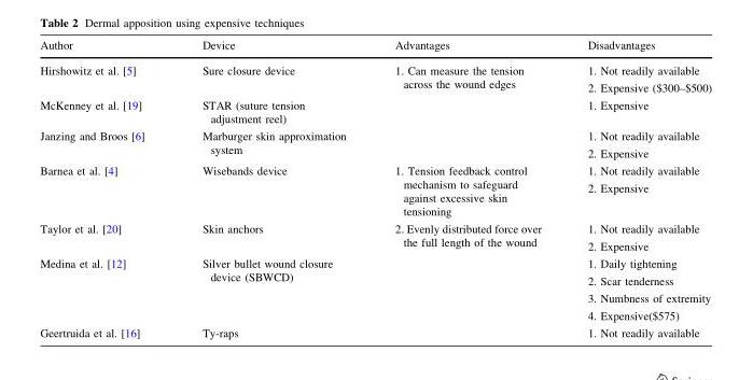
<table><thead><tr><td>Author</td><td>Device</td><td>Advantages</td><td>Disadvantages</td></tr></thead><tbody><tr><td rowspan="2">Hirshowitz et al. [5]</td><td rowspan="2">Sure closure device</td><td rowspan="2">1. Can measure the tension across the wound edges</td><td>1. Not readily available</td></tr><tr><td>2. Expensive ($300–$500)</td></tr><tr><td>McKenney et al. [19]</td><td>STAR (suture tension adjustment reel)</td><td></td><td>1. Expensive</td></tr><tr><td rowspan="2">Janzing and Broos [6]</td><td rowspan="2">Marburger skin approximation system</td><td rowspan="2"></td><td>1. Not readily available</td></tr><tr><td>2. Expensive</td></tr><tr><td rowspan="2">Barnea et al. [4]</td><td rowspan="2">Wisebands device</td><td rowspan="2">1. Tension feedback control mechanism to safeguard against excessive skin tensioning</td><td>1. Not readily available</td></tr><tr><td>2. Expensive</td></tr><tr><td rowspan="2">Taylor et al. [20]</td><td rowspan="2">Skin anchors</td><td rowspan="2">2. Evenly distributed force over the full length of the wound</td><td>1. Not readily available</td></tr><tr><td>2. Expensive</td></tr><tr><td rowspan="4">Medina et al. [12]</td><td rowspan="4">Silver bullet wound closure device (SBWCD)</td><td rowspan="4"></td><td>1. Daily tightening</td></tr><tr><td>2. Scar tenderness</td></tr><tr><td>3. Numbness of extremity</td></tr><tr><td>4. Expensive($575)</td></tr><tr><td>Geertruida et al. [16]</td><td>Ty-raps</td><td></td><td>1. Not readily available</td></tr></tbody></table>